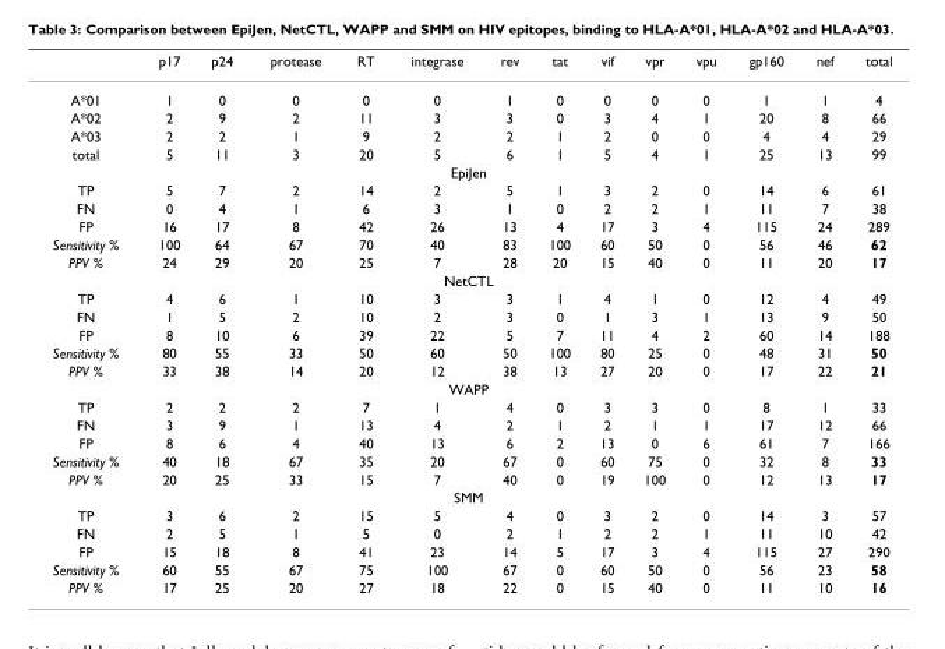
<table><thead><tr><td></td><td>p17</td><td>p24</td><td>protease</td><td>RT</td><td>integrase</td><td>rev</td><td>tat</td><td>vif</td><td>vpr</td><td>vpu</td><td>gp160</td><td>nef</td><td>total</td></tr></thead><tbody><tr><td>A*01</td><td>1</td><td>0</td><td>0</td><td>0</td><td>0</td><td>1</td><td>0</td><td>0</td><td>0</td><td>0</td><td>1</td><td>1</td><td>4</td></tr><tr><td>A*02</td><td>2</td><td>9</td><td>2</td><td>11</td><td>3</td><td>3</td><td>0</td><td>3</td><td>4</td><td>1</td><td>20</td><td>8</td><td>66</td></tr><tr><td>A*03</td><td>2</td><td>2</td><td>1</td><td>9</td><td>2</td><td>2</td><td>1</td><td>2</td><td>0</td><td>0</td><td>4</td><td>4</td><td>29</td></tr><tr><td>total</td><td>5</td><td>11</td><td>3</td><td>20</td><td>5</td><td>6</td><td>1</td><td>5</td><td>4</td><td>1</td><td>25</td><td>13</td><td>99</td></tr><tr><td colspan="14">EpiJen</td></tr><tr><td>TP</td><td>5</td><td>7</td><td>2</td><td>14</td><td>2</td><td>5</td><td>1</td><td>3</td><td>2</td><td>0</td><td>14</td><td>6</td><td>61</td></tr><tr><td>FN</td><td>0</td><td>4</td><td>1</td><td>6</td><td>3</td><td>1</td><td>0</td><td>2</td><td>2</td><td>1</td><td>11</td><td>7</td><td>38</td></tr><tr><td>FP</td><td>16</td><td>17</td><td>8</td><td>42</td><td>26</td><td>13</td><td>4</td><td>17</td><td>3</td><td>4</td><td>115</td><td>24</td><td>289</td></tr><tr><td>Sensitivity %</td><td>100</td><td>64</td><td>67</td><td>70</td><td>40</td><td>83</td><td>100</td><td>60</td><td>50</td><td>0</td><td>56</td><td>46</td><td>62</td></tr><tr><td>PPV %</td><td>24</td><td>29</td><td>20</td><td>25</td><td>7</td><td>28</td><td>20</td><td>15</td><td>40</td><td>0</td><td>11</td><td>20</td><td>17</td></tr><tr><td colspan="14">NetCTL</td></tr><tr><td>TP</td><td>4</td><td>6</td><td>1</td><td>10</td><td>3</td><td>3</td><td>1</td><td>4</td><td>1</td><td>0</td><td>12</td><td>4</td><td>49</td></tr><tr><td>FN</td><td>1</td><td>5</td><td>2</td><td>10</td><td>2</td><td>3</td><td>0</td><td>1</td><td>3</td><td>1</td><td>13</td><td>9</td><td>50</td></tr><tr><td>FP</td><td>8</td><td>10</td><td>6</td><td>39</td><td>22</td><td>5</td><td>7</td><td>11</td><td>4</td><td>2</td><td>60</td><td>14</td><td>188</td></tr><tr><td>Sensitivity %</td><td>80</td><td>55</td><td>33</td><td>50</td><td>60</td><td>50</td><td>100</td><td>80</td><td>25</td><td>0</td><td>48</td><td>31</td><td>50</td></tr><tr><td>PPV %</td><td>33</td><td>38</td><td>14</td><td>20</td><td>12</td><td>38</td><td>13</td><td>27</td><td>20</td><td>0</td><td>17</td><td>22</td><td>21</td></tr><tr><td colspan="14">WAPP</td></tr><tr><td>TP</td><td>2</td><td>2</td><td>2</td><td>7</td><td>1</td><td>4</td><td>0</td><td>3</td><td>3</td><td>0</td><td>8</td><td>1</td><td>33</td></tr><tr><td>FN</td><td>3</td><td>9</td><td>1</td><td>13</td><td>4</td><td>2</td><td>1</td><td>2</td><td>1</td><td>1</td><td>17</td><td>12</td><td>66</td></tr><tr><td>FP</td><td>8</td><td>6</td><td>4</td><td>40</td><td>13</td><td>6</td><td>2</td><td>13</td><td>0</td><td>6</td><td>61</td><td>7</td><td>166</td></tr><tr><td>Sensitivity %</td><td>40</td><td>18</td><td>67</td><td>35</td><td>20</td><td>67</td><td>0</td><td>60</td><td>75</td><td>0</td><td>32</td><td>8</td><td>33</td></tr><tr><td>PPV %</td><td>20</td><td>25</td><td>33</td><td>15</td><td>7</td><td>40</td><td>0</td><td>19</td><td>100</td><td>0</td><td>12</td><td>13</td><td>17</td></tr><tr><td colspan="14">SMM</td></tr><tr><td>TP</td><td>3</td><td>6</td><td>2</td><td>15</td><td>5</td><td>4</td><td>0</td><td>3</td><td>2</td><td>0</td><td>14</td><td>3</td><td>57</td></tr><tr><td>FN</td><td>2</td><td>5</td><td>1</td><td>5</td><td>0</td><td>2</td><td>1</td><td>2</td><td>2</td><td>1</td><td>11</td><td>10</td><td>42</td></tr><tr><td>FP</td><td>15</td><td>18</td><td>8</td><td>41</td><td>23</td><td>14</td><td>5</td><td>17</td><td>3</td><td>4</td><td>115</td><td>27</td><td>290</td></tr><tr><td>Sensitivity %</td><td>60</td><td>55</td><td>67</td><td>75</td><td>100</td><td>67</td><td>0</td><td>60</td><td>50</td><td>0</td><td>56</td><td>23</td><td>58</td></tr><tr><td>PPV %</td><td>17</td><td>25</td><td>20</td><td>27</td><td>18</td><td>22</td><td>0</td><td>15</td><td>40</td><td>0</td><td>11</td><td>10</td><td>16</td></tr></tbody></table>